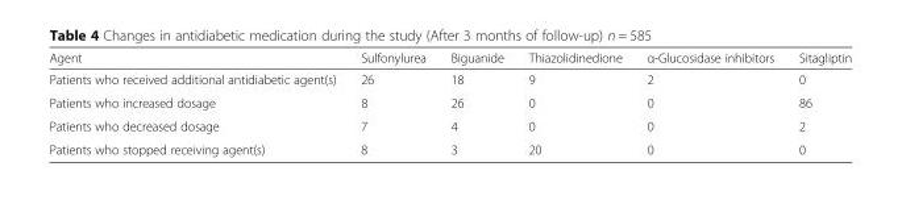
<table><thead><tr><td>Agent</td><td>Sulfonylurea</td><td>Biguanide</td><td>Thiazolidinedione</td><td>α-Glucosidase inhibitors</td><td>Sitagliptin</td></tr></thead><tbody><tr><td>Patients who received additional antidiabetic agent(s)</td><td>26</td><td>18</td><td>9</td><td>2</td><td>0</td></tr><tr><td>Patients who increased dosage</td><td>8</td><td>26</td><td>0</td><td>0</td><td>86</td></tr><tr><td>Patients who decreased dosage</td><td>7</td><td>4</td><td>0</td><td>0</td><td>2</td></tr><tr><td>Patients who stopped receiving agent(s)</td><td>8</td><td>3</td><td>20</td><td>0</td><td>0</td></tr></tbody></table>